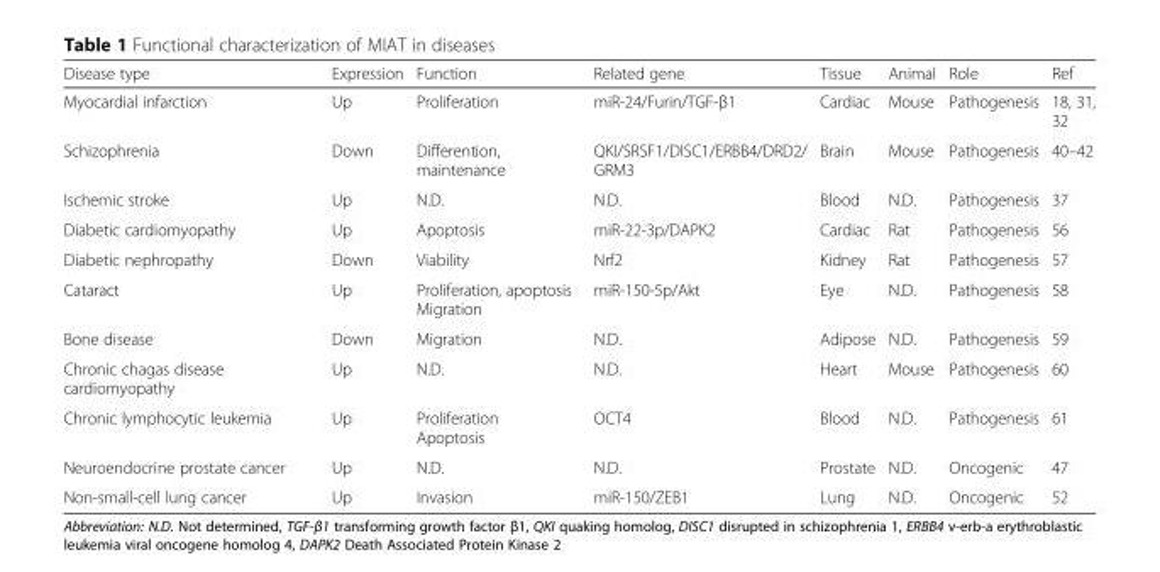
<table><thead><tr><td>Disease type</td><td>Expression</td><td>Function</td><td>Related gene</td><td>Tissue</td><td>Animal</td><td>Role</td><td>Ref</td></tr></thead><tbody><tr><td>Myocardial infarction</td><td>Up</td><td>Proliferation</td><td>miR-24/Furin/TGF-β1</td><td>Cardiac</td><td>Mouse</td><td>Pathogenesis</td><td>18, 31, 32</td></tr><tr><td>Schizophrenia</td><td>Down</td><td>Differention, maintenance</td><td>QKI/SRSF1/DISC1/ERBB4/DRD2/ GRM3</td><td>Brain</td><td>Mouse</td><td>Pathogenesis</td><td>40–42</td></tr><tr><td>Ischemic stroke</td><td>Up</td><td>N.D.</td><td>N.D.</td><td>Blood</td><td>N.D.</td><td>Pathogenesis</td><td>37</td></tr><tr><td>Diabetic cardiomyopathy</td><td>Up</td><td>Apoptosis</td><td>miR-22-3p/DAPK2</td><td>Cardiac</td><td>Rat</td><td>Pathogenesis</td><td>56</td></tr><tr><td>Diabetic nephropathy</td><td>Down</td><td>Viability</td><td>Nrf2</td><td>Kidney</td><td>Rat</td><td>Pathogenesis</td><td>57</td></tr><tr><td>Cataract</td><td>Up</td><td>Proliferation, apoptosis Migration</td><td>miR-150-5p/Akt</td><td>Eye</td><td>N.D.</td><td>Pathogenesis</td><td>58</td></tr><tr><td>Bone disease</td><td>Down</td><td>Migration</td><td>N.D.</td><td>Adipose</td><td>N.D.</td><td>Pathogenesis</td><td>59</td></tr><tr><td>Chronic chagas disease cardiomyopathy</td><td>Up</td><td>N.D.</td><td>N.D.</td><td>Heart</td><td>Mouse</td><td>Pathogenesis</td><td>60</td></tr><tr><td>Chronic lymphocytic leukemia</td><td>Up</td><td>Proliferation Apoptosis</td><td>OCT4</td><td>Blood</td><td>N.D.</td><td>Pathogenesis</td><td>61</td></tr><tr><td>Neuroendocrine prostate cancer</td><td>Up</td><td>N.D.</td><td>N.D.</td><td>Prostate</td><td>N.D.</td><td>Oncogenic</td><td>47</td></tr><tr><td>Non-small-cell lung cancer</td><td>Up</td><td>Invasion</td><td>miR-150/ZEB1</td><td>Lung</td><td>N.D.</td><td>Oncogenic</td><td>52</td></tr></tbody></table>